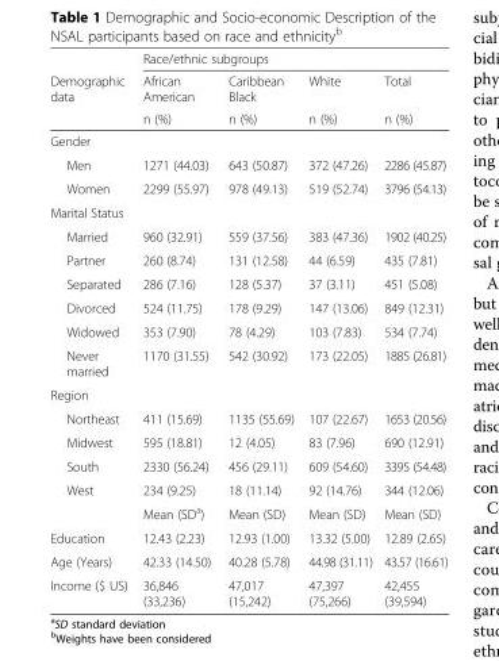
<table><thead><tr><td rowspan="3">Demographic data</td><td colspan="4">Race/ethnic subgroups</td></tr><tr><td rowspan="2">African American n (%)</td><td rowspan="2">Caribbean Black n (%)</td><td rowspan="2">White n (%)</td><td rowspan="2">Total n (%)</td></tr><tr></tr></thead><tbody><tr><td colspan="5">Gender</td></tr><tr><td>Men</td><td>1271 (44.03)</td><td>643 (50.87)</td><td>372 (47.26)</td><td>2286 (45.87)</td></tr><tr><td>Women</td><td>2299 (55.97)</td><td>978 (49.13)</td><td>519 (52.74)</td><td>3796 (54.13)</td></tr><tr><td colspan="5">Marital Status</td></tr><tr><td>Married</td><td>960 (32.91)</td><td>559 (37.56)</td><td>383 (47.36)</td><td>1902 (40.25)</td></tr><tr><td>Partner</td><td>260 (8.74)</td><td>131 (12.58)</td><td>44 (6.59)</td><td>435 (7.81)</td></tr><tr><td>Separated</td><td>286 (7.16)</td><td>128 (5.37)</td><td>37 (3.11)</td><td>451 (5.08)</td></tr><tr><td>Divorced</td><td>524 (11.75)</td><td>178 (9.29)</td><td>147 (13.06)</td><td>849 (12.31)</td></tr><tr><td>Widowed</td><td>353 (7.90)</td><td>78 (4.29)</td><td>103 (7.83)</td><td>534 (7.74)</td></tr><tr><td>Never married</td><td>1170 (31.55)</td><td>542 (30.92)</td><td>173 (22.05)</td><td>1885 (26.81)</td></tr><tr><td colspan="5">Region</td></tr><tr><td>Northeast</td><td>411 (15.69)</td><td>1135 (55.69)</td><td>107 (22.67)</td><td>1653 (20.56)</td></tr><tr><td>Midwest</td><td>595 (18.81)</td><td>12 (4.05)</td><td>83 (7.96)</td><td>690 (12.91)</td></tr><tr><td>South</td><td>2330 (56.24)</td><td>456 (29.11)</td><td>609 (54.60)</td><td>3395 (54.48)</td></tr><tr><td rowspan="2">West</td><td>234 (9.25)</td><td>18 (11.14)</td><td>92 (14.76)</td><td>344 (12.06)</td></tr><tr><td>Mean (SD<sup>a</sup>)</td><td>Mean (SD)</td><td>Mean (SD)</td><td>Mean (SD)</td></tr><tr><td>Education</td><td>12.43 (2.23)</td><td>12.93 (1.00)</td><td>13.32 (5.00)</td><td>12.89 (2.65)</td></tr><tr><td>Age (Years)</td><td>42.33 (14.50)</td><td>40.28 (5.78)</td><td>44.98 (31.11)</td><td>43.57 (16.61)</td></tr><tr><td>Income ($ US)</td><td>36,846 (33,236)</td><td>47,017 (15,242)</td><td>47,397 (75,266)</td><td>42,455 (39,594)</td></tr></tbody></table>